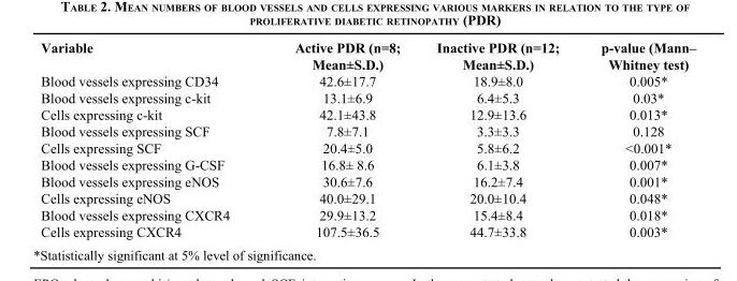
<table><thead><tr><td>Variable</td><td>Active PDR (n=8; Mean±S.D.)</td><td>Inactive PDR (n=12; Mean±S.D.)</td><td>p-value (Mann– Whitney test)</td></tr></thead><tbody><tr><td>Blood vessels expressing CD34</td><td>42.6±17.7</td><td>18.9±8.0</td><td>0.005*</td></tr><tr><td>Blood vessels expressing c-kit</td><td>13.1±6.9</td><td>6.4±5.3</td><td>0.03*</td></tr><tr><td>Cells expressing c-kit</td><td>42.1±43.8</td><td>12.9±13.6</td><td>0.013*</td></tr><tr><td>Blood vessels expressing SCF</td><td>7.8±7.1</td><td>3.3±3.3</td><td>0.128</td></tr><tr><td>Cells expressing SCF</td><td>20.4±5.0</td><td>5.8±6.2</td><td>&lt;0.001*</td></tr><tr><td>Blood vessels expressing G-CSF</td><td>16.8± 8.6</td><td>6.1±3.8</td><td>0.007*</td></tr><tr><td>Blood vessels expressing eNOS</td><td>30.6±7.6</td><td>16.2±7.4</td><td>0.001*</td></tr><tr><td>Cells expressing eNOS</td><td>40.0±29.1</td><td>20.0±10.4</td><td>0.048*</td></tr><tr><td>Blood vessels expressing CXCR4</td><td>29.9±13.2</td><td>15.4±8.4</td><td>0.018*</td></tr><tr><td>Cells expressing CXCR4</td><td>107.5±36.5</td><td>44.7±33.8</td><td>0.003*</td></tr></tbody></table>